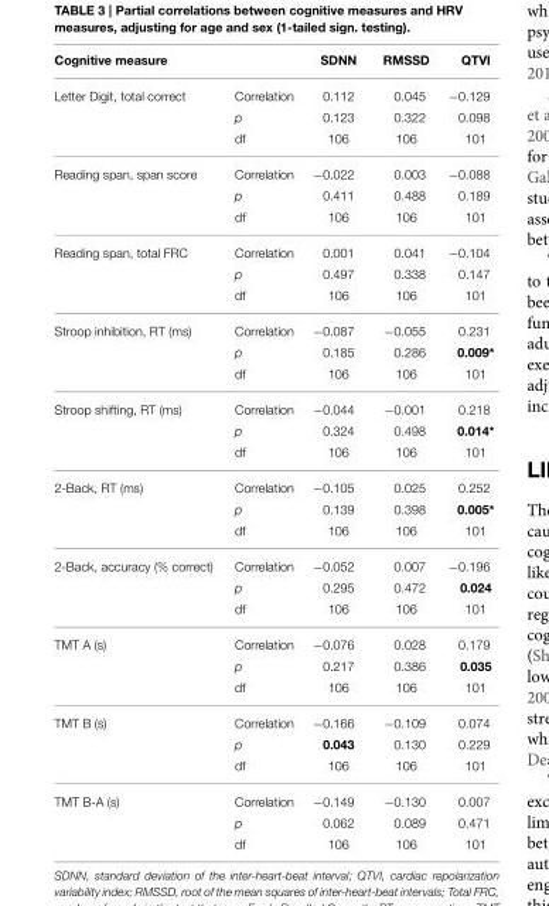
<table><thead><tr><td>Cognitive measure</td><td></td><td>SDNN</td><td>RMSSD</td><td>QTVI</td></tr></thead><tbody><tr><td rowspan="3">Letter Digit, total correct</td><td>Correlation</td><td>0.112</td><td>0.045</td><td>−0.129</td></tr><tr><td>p</td><td>0.123</td><td>0.322</td><td>0.098</td></tr><tr><td>df</td><td>106</td><td>106</td><td>101</td></tr><tr><td rowspan="3">Reading span, span score</td><td>Correlation</td><td>−0.022</td><td>0.003</td><td>−0.088</td></tr><tr><td>p</td><td>0.411</td><td>0.488</td><td>0.189</td></tr><tr><td>df</td><td>106</td><td>106</td><td>101</td></tr><tr><td rowspan="3">Reading span, total FRC</td><td>Correlation</td><td>0.001</td><td>0.041</td><td>−0.104</td></tr><tr><td>p</td><td>0.497</td><td>0.338</td><td>0.147</td></tr><tr><td>df</td><td>106</td><td>106</td><td>101</td></tr><tr><td rowspan="3">Stroop inhibition, RT (ms)</td><td>Correlation</td><td>−0.087</td><td>−0.055</td><td>0.231</td></tr><tr><td>p</td><td>0.185</td><td>0.286</td><td>0.009*</td></tr><tr><td>df</td><td>106</td><td>106</td><td>101</td></tr><tr><td rowspan="3">Stroop shifting, RT (ms)</td><td>Correlation</td><td>−0.044</td><td>−0.001</td><td>0.218</td></tr><tr><td>p</td><td>0.324</td><td>0.498</td><td>0.014*</td></tr><tr><td>df</td><td>106</td><td>106</td><td>101</td></tr><tr><td rowspan="3">2-Back, RT (ms)</td><td>Correlation</td><td>−0.105</td><td>0.025</td><td>0.252</td></tr><tr><td>p</td><td>0.139</td><td>0.398</td><td>0.005*</td></tr><tr><td>df</td><td>106</td><td>106</td><td>101</td></tr><tr><td rowspan="3">2-Back, accuracy (% correct)</td><td>Correlation</td><td>−0.052</td><td>0.007</td><td>−0.196</td></tr><tr><td>p</td><td>0.295</td><td>0.472</td><td>0.024</td></tr><tr><td>df</td><td>106</td><td>106</td><td>101</td></tr><tr><td rowspan="3">TMT A (s)</td><td>Correlation</td><td>−0.076</td><td>0.028</td><td>0.179</td></tr><tr><td>p</td><td>0.217</td><td>0.386</td><td>0.035</td></tr><tr><td>df</td><td>106</td><td>106</td><td>101</td></tr><tr><td rowspan="3">TMT B (s)</td><td>Correlation</td><td>−0.166</td><td>−0.109</td><td>0.074</td></tr><tr><td>p</td><td>0.043</td><td>0.130</td><td>0.229</td></tr><tr><td>df</td><td>106</td><td>106</td><td>101</td></tr><tr><td rowspan="3">TMT B-A (s)</td><td>Correlation</td><td>−0.149</td><td>−0.130</td><td>0.007</td></tr><tr><td>p</td><td>0.062</td><td>0.089</td><td>0.471</td></tr><tr><td>df</td><td>106</td><td>106</td><td>101</td></tr></tbody></table>